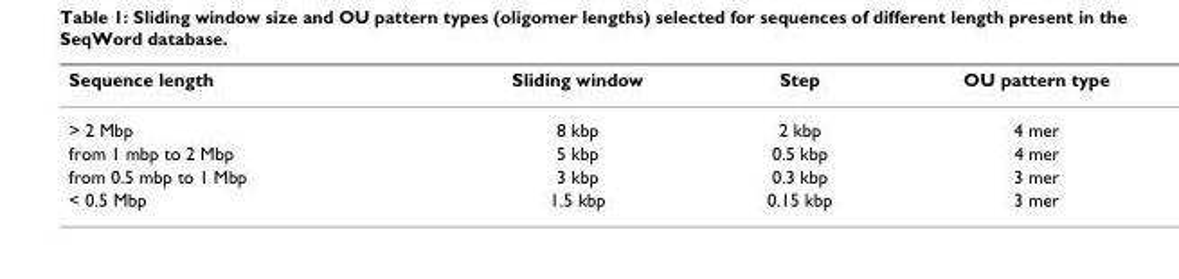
<table><thead><tr><td>Sequence length</td><td>Sliding window</td><td>Step</td><td>OU pattern type</td></tr></thead><tbody><tr><td>&gt; 2 Mbp</td><td>8 kbp</td><td>2 kbp</td><td>4 mer</td></tr><tr><td>from 1 mbp to 2 Mbp</td><td>5 kbp</td><td>0.5 kbp</td><td>4 mer</td></tr><tr><td>from 0.5 mbp to 1 Mbp</td><td>3 kbp</td><td>0.3 kbp</td><td>3 mer</td></tr><tr><td>&lt; 0.5 Mbp</td><td>1.5 kbp</td><td>0.15 kbp</td><td>3 mer</td></tr></tbody></table>